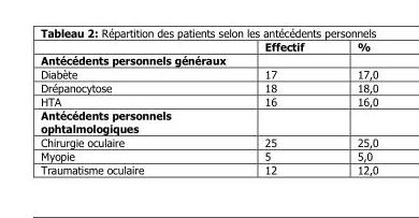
<table><thead><tr><td></td><td>Effectif</td><td>%</td></tr></thead><tbody><tr><td colspan="3">Antécédents personnels généraux</td></tr><tr><td>Diabète</td><td>17</td><td>17,0</td></tr><tr><td>Drépanocytose</td><td>18</td><td>18,0</td></tr><tr><td>HTA</td><td>16</td><td>16,0</td></tr><tr><td colspan="3">Antécédents personnels ophtalmologiques</td></tr><tr><td>Chirurgie oculaire</td><td>25</td><td>25,0</td></tr><tr><td>Myopie</td><td>5</td><td>5,0</td></tr><tr><td>Traumatisme oculaire</td><td>12</td><td>12,0</td></tr></tbody></table>